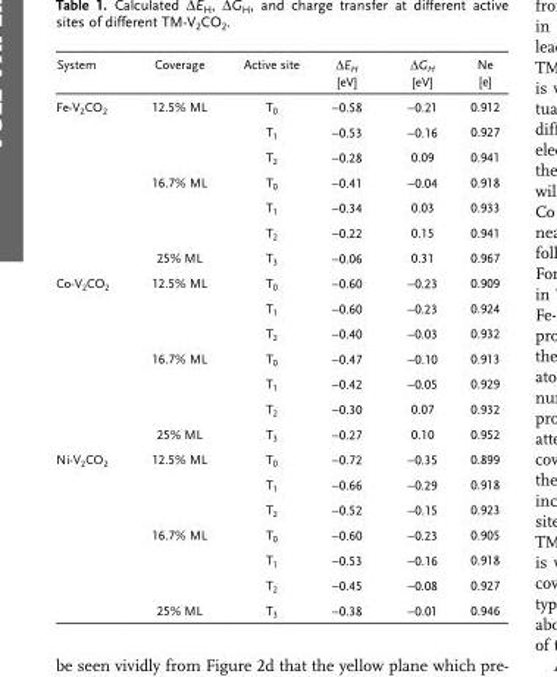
<table><thead><tr><td>System</td><td>Coverage</td><td>Active site</td><td>ΔE<sub>H</sub> [eV]</td><td>ΔG<sub>H</sub> [eV]</td><td>Ne [e]</td></tr></thead><tbody><tr><td rowspan="7">Fe-V<sub>2</sub>CO<sub>2</sub></td><td>12.5% ML</td><td>T<sub>0</sub></td><td>−0.58</td><td>−0.21</td><td>0.912</td></tr><tr><td></td><td>T<sub>1</sub></td><td>−0.53</td><td>−0.16</td><td>0.927</td></tr><tr><td></td><td>T<sub>2</sub></td><td>−0.28</td><td>0.09</td><td>0.941</td></tr><tr><td>16.7% ML</td><td>T<sub>0</sub></td><td>−0.41</td><td>−0.04</td><td>0.918</td></tr><tr><td></td><td>T<sub>1</sub></td><td>−0.34</td><td>0.03</td><td>0.933</td></tr><tr><td></td><td>T<sub>2</sub></td><td>−0.22</td><td>0.15</td><td>0.941</td></tr><tr><td>25% ML</td><td>T<sub>3</sub></td><td>−0.06</td><td>0.31</td><td>0.967</td></tr><tr><td rowspan="7">Co-V<sub>2</sub>CO<sub>2</sub></td><td>12.5% ML</td><td>T<sub>0</sub></td><td>−0.60</td><td>−0.23</td><td>0.909</td></tr><tr><td></td><td>T<sub>1</sub></td><td>−0.60</td><td>−0.23</td><td>0.924</td></tr><tr><td></td><td>T<sub>2</sub></td><td>−0.40</td><td>−0.03</td><td>0.932</td></tr><tr><td>16.7% ML</td><td>T<sub>0</sub></td><td>−0.47</td><td>−0.10</td><td>0.913</td></tr><tr><td></td><td>T<sub>1</sub></td><td>−0.42</td><td>−0.05</td><td>0.929</td></tr><tr><td></td><td>T<sub>2</sub></td><td>−0.30</td><td>0.07</td><td>0.932</td></tr><tr><td>25% ML</td><td>T<sub>3</sub></td><td>−0.27</td><td>0.10</td><td>0.952</td></tr><tr><td rowspan="7">Ni-V<sub>2</sub>CO<sub>2</sub></td><td>12.5% ML</td><td>T<sub>0</sub></td><td>−0.72</td><td>−0.35</td><td>0.899</td></tr><tr><td></td><td>T<sub>1</sub></td><td>−0.66</td><td>−0.29</td><td>0.918</td></tr><tr><td></td><td>T<sub>2</sub></td><td>−0.52</td><td>−0.15</td><td>0.923</td></tr><tr><td>16.7% ML</td><td>T<sub>0</sub></td><td>−0.60</td><td>−0.23</td><td>0.905</td></tr><tr><td></td><td>T<sub>1</sub></td><td>−0.53</td><td>−0.16</td><td>0.918</td></tr><tr><td></td><td>T<sub>2</sub></td><td>−0.45</td><td>−0.08</td><td>0.927</td></tr><tr><td>25% ML</td><td>T<sub>3</sub></td><td>−0.38</td><td>−0.01</td><td>0.946</td></tr></tbody></table>